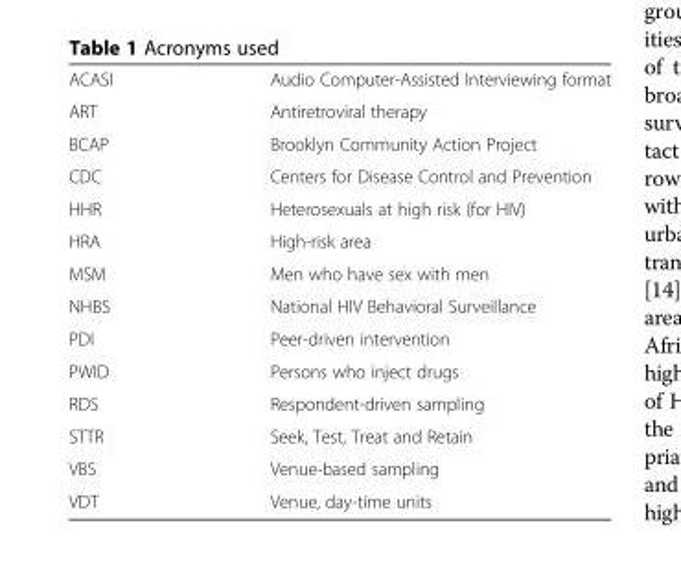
<table><tbody><tr><td>ACASI</td><td>Audio Computer-Assisted Interviewing format</td></tr><tr><td>ART</td><td>Antiretroviral therapy</td></tr><tr><td>BCAP</td><td>Brooklyn Community Action Project</td></tr><tr><td>CDC</td><td>Centers for Disease Control and Prevention</td></tr><tr><td>HHR</td><td>Heterosexuals at high risk (for HIV)</td></tr><tr><td>HRA</td><td>High-risk area</td></tr><tr><td>MSM</td><td>Men who have sex with men</td></tr><tr><td>NHBS</td><td>National HIV Behavioral Surveillance</td></tr><tr><td>PDI</td><td>Peer-driven intervention</td></tr><tr><td>PWID</td><td>Persons who inject drugs</td></tr><tr><td>RDS</td><td>Respondent-driven sampling</td></tr><tr><td>STTR</td><td>Seek, Test, Treat and Retain</td></tr><tr><td>VBS</td><td>Venue-based sampling</td></tr><tr><td>VDT</td><td>Venue, day-time units</td></tr></tbody></table>